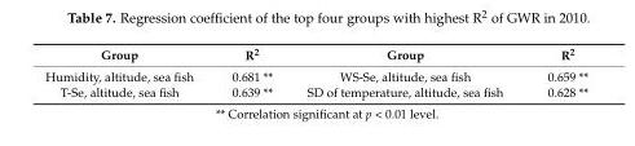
<table><thead><tr><td>Group</td><td>R<sup>2</sup></td><td>Group</td><td>R<sup>2</sup></td></tr></thead><tbody><tr><td>Humidity, altitude, sea fish</td><td>0.681 **</td><td>WS-Se, altitude, sea fish</td><td>0.659 **</td></tr><tr><td>T-Se, altitude, sea fish</td><td>0.639 **</td><td>SD of temperature, altitude, sea fish</td><td>0.628 **</td></tr></tbody></table>